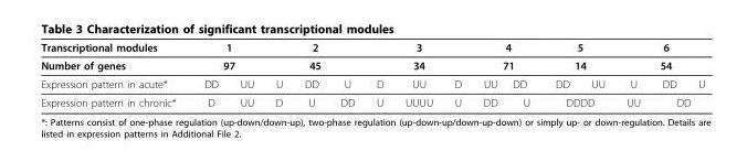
<table><thead><tr><td rowspan="3">Transcriptional modules Number of genes Expression pattern in acute*</td><td rowspan="2" colspan="2">1 97</td><td rowspan="2" colspan="3">2 45</td><td rowspan="2" colspan="3">3 34</td><td rowspan="2" colspan="2">4 71</td><td rowspan="2" colspan="2">5 14</td><td rowspan="2" colspan="3">6 54</td></tr><tr></tr><tr><td>DD</td><td>UU</td><td>U</td><td>DD</td><td>U</td><td>D</td><td>UU</td><td>D</td><td>UU</td><td>DD</td><td>DD</td><td>UU</td><td>U</td><td>DD</td><td>U</td></tr></thead><tbody><tr><td>Expression pattern in chronic*</td><td>D</td><td>UU</td><td>D</td><td>U</td><td>DD</td><td>U</td><td>UUUU</td><td>U</td><td>DD</td><td>U</td><td colspan="2">DDDD</td><td>UU</td><td colspan="2">DD</td></tr></tbody></table>